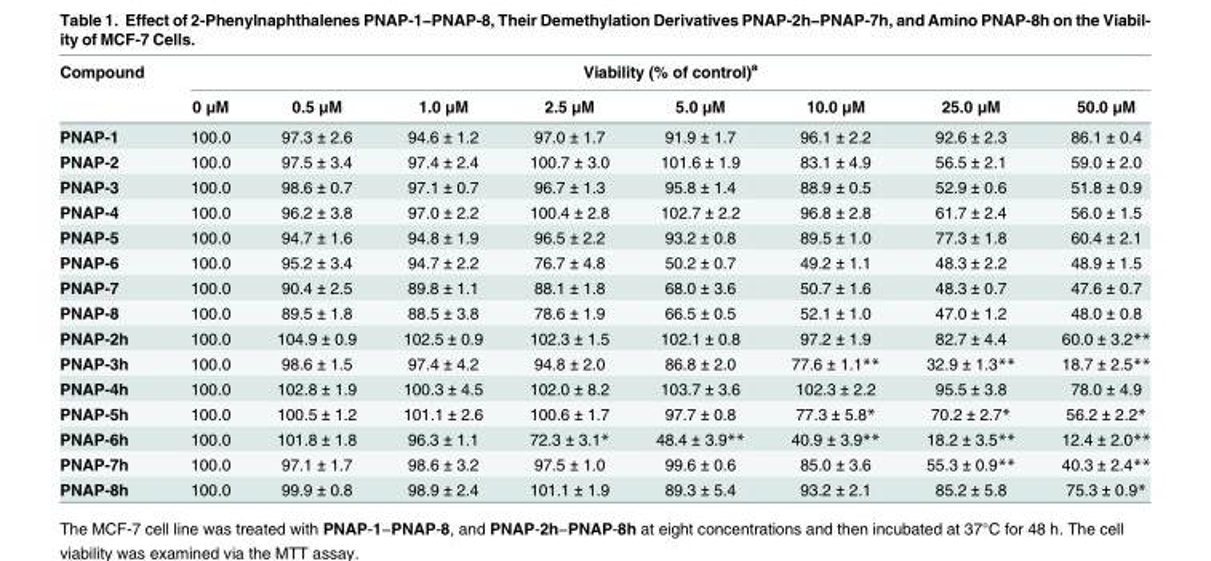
<table><thead><tr><td rowspan="2">Compound</td><td colspan="8">Viability (% of control)<sup>a</sup></td></tr><tr><td>0 μM</td><td>0.5 μM</td><td>1.0 μM</td><td>2.5 μM</td><td>5.0 μM</td><td>10.0 μM</td><td>25.0 μM</td><td>50.0 μM</td></tr></thead><tbody><tr><td>PNAP-1</td><td>100.0</td><td>97.3 ± 2.6</td><td>94.6 ± 1.2</td><td>97.0 ± 1.7</td><td>91.9 ± 1.7</td><td>96.1 ± 2.2</td><td>92.6 ± 2.3</td><td>86.1 ± 0.4</td></tr><tr><td>PNAP-2</td><td>100.0</td><td>97.5 ± 3.4</td><td>97.4 ± 2.4</td><td>100.7 ± 3.0</td><td>101.6 ± 1.9</td><td>83.1 ± 4.9</td><td>56.5 ± 2.1</td><td>59.0 ± 2.0</td></tr><tr><td>PNAP-3</td><td>100.0</td><td>98.6 ± 0.7</td><td>97.1 ± 0.7</td><td>96.7 ± 1.3</td><td>95.8 ± 1.4</td><td>88.9 ± 0.5</td><td>52.9 ± 0.6</td><td>51.8 ± 0.9</td></tr><tr><td>PNAP-4</td><td>100.0</td><td>96.2 ± 3.8</td><td>97.0 ± 2.2</td><td>100.4 ± 2.8</td><td>102.7 ± 2.2</td><td>96.8 ± 2.8</td><td>61.7 ± 2.4</td><td>56.0 ± 1.5</td></tr><tr><td>PNAP-5</td><td>100.0</td><td>94.7 ± 1.6</td><td>94.8 ± 1.9</td><td>96.5 ± 2.2</td><td>93.2 ± 0.8</td><td>89.5 ± 1.0</td><td>77.3 ± 1.8</td><td>60.4 ± 2.1</td></tr><tr><td>PNAP-6</td><td>100.0</td><td>95.2 ± 3.4</td><td>94.7 ± 2.2</td><td>76.7 ± 4.8</td><td>50.2 ± 0.7</td><td>49.2 ± 1.1</td><td>48.3 ± 2.2</td><td>48.9 ± 1.5</td></tr><tr><td>PNAP-7</td><td>100.0</td><td>90.4 ± 2.5</td><td>89.8 ± 1.1</td><td>88.1 ± 1.8</td><td>68.0 ± 3.6</td><td>50.7 ± 1.6</td><td>48.3 ± 0.7</td><td>47.6 ± 0.7</td></tr><tr><td>PNAP-8</td><td>100.0</td><td>89.5 ± 1.8</td><td>88.5 ± 3.8</td><td>78.6 ± 1.9</td><td>66.5 ± 0.5</td><td>52.1 ± 1.0</td><td>47.0 ± 1.2</td><td>48.0 ± 0.8</td></tr><tr><td>PNAP-2h</td><td>100.0</td><td>104.9 ± 0.9</td><td>102.5 ± 0.9</td><td>102.3 ± 1.5</td><td>102.1 ± 0.8</td><td>97.2 ± 1.9</td><td>82.7 ± 4.4</td><td>60.0 ± 3.2**</td></tr><tr><td>PNAP-3h</td><td>100.0</td><td>98.6 ± 1.5</td><td>97.4 ± 4.2</td><td>94.8 ± 2.0</td><td>86.8 ± 2.0</td><td>77.6 ± 1.1**</td><td>32.9 ± 1.3**</td><td>18.7 ± 2.5**</td></tr><tr><td>PNAP-4h</td><td>100.0</td><td>102.8 ± 1.9</td><td>100.3 ± 4.5</td><td>102.0 ± 8.2</td><td>103.7 ± 3.6</td><td>102.3 ± 2.2</td><td>95.5 ± 3.8</td><td>78.0 ± 4.9</td></tr><tr><td>PNAP-5h</td><td>100.0</td><td>100.5 ± 1.2</td><td>101.1 ± 2.6</td><td>100.6 ± 1.7</td><td>97.7 ± 0.8</td><td>77.3 ± 5.8*</td><td>70.2 ± 2.7*</td><td>56.2 ± 2.2*</td></tr><tr><td>PNAP-6h</td><td>100.0</td><td>101.8 ± 1.8</td><td>96.3 ± 1.1</td><td>72.3 ± 3.1*</td><td>48.4 ± 3.9**</td><td>40.9 ± 3.9**</td><td>18.2 ± 3.5**</td><td>12.4 ± 2.0**</td></tr><tr><td>PNAP-7h</td><td>100.0</td><td>97.1 ± 1.7</td><td>98.6 ± 3.2</td><td>97.5 ± 1.0</td><td>99.6 ± 0.6</td><td>85.0 ± 3.6</td><td>55.3 ± 0.9**</td><td>40.3 ± 2.4**</td></tr><tr><td>PNAP-8h</td><td>100.0</td><td>99.9 ± 0.8</td><td>98.9 ± 2.4</td><td>101.1 ± 1.9</td><td>89.3 ± 5.4</td><td>93.2 ± 2.1</td><td>85.2 ± 5.8</td><td>75.3 ± 0.9*</td></tr></tbody></table>